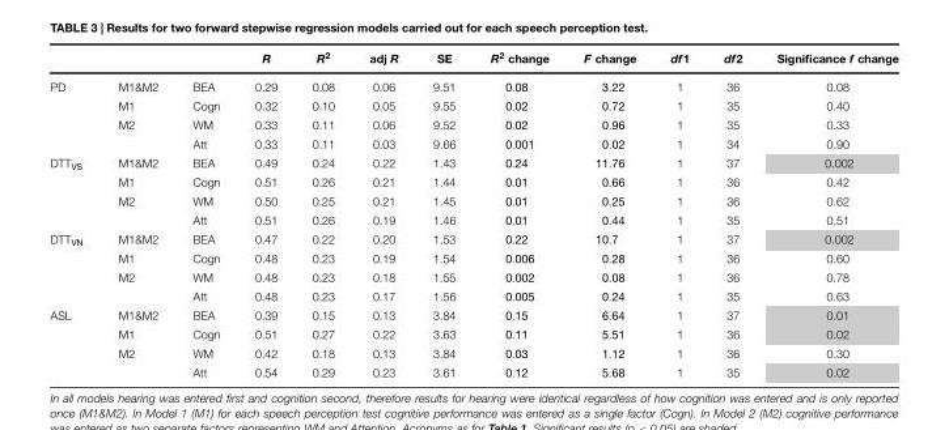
<table><thead><tr><td></td><td></td><td></td><td>R</td><td>R2</td><td>adj R</td><td>SE</td><td>R2 change</td><td>F change</td><td>df1</td><td>df2</td><td>Significance f change</td></tr></thead><tbody><tr><td rowspan="4">PD</td><td>M1&amp;M2</td><td>BEA</td><td>0.29</td><td>0.08</td><td>0.06</td><td>9.51</td><td>0.08</td><td>3.22</td><td>1</td><td>36</td><td>0.08</td></tr><tr><td>M1</td><td>Cogn</td><td>0.32</td><td>0.10</td><td>0.05</td><td>9.55</td><td>0.02</td><td>0.72</td><td>1</td><td>35</td><td>0.40</td></tr><tr><td>M2</td><td>WM</td><td>0.33</td><td>0.11</td><td>0.06</td><td>9.52</td><td>0.02</td><td>0.96</td><td>1</td><td>35</td><td>0.33</td></tr><tr><td></td><td>Att</td><td>0.33</td><td>0.11</td><td>0.03</td><td>9.66</td><td>0.001</td><td>0.02</td><td>1</td><td>34</td><td>0.90</td></tr><tr><td rowspan="4">DTTVS</td><td>M1&amp;M2</td><td>BEA</td><td>0.49</td><td>0.24</td><td>0.22</td><td>1.43</td><td>0.24</td><td>11.76</td><td>1</td><td>37</td><td>0.002</td></tr><tr><td>M1</td><td>Cogn</td><td>0.51</td><td>0.26</td><td>0.21</td><td>1.44</td><td>0.01</td><td>0.66</td><td>1</td><td>36</td><td>0.42</td></tr><tr><td>M2</td><td>WM</td><td>0.50</td><td>0.25</td><td>0.21</td><td>1.45</td><td>0.01</td><td>0.25</td><td>1</td><td>36</td><td>0.62</td></tr><tr><td></td><td>Att</td><td>0.51</td><td>0.26</td><td>0.19</td><td>1.46</td><td>0.01</td><td>0.44</td><td>1</td><td>35</td><td>0.51</td></tr><tr><td rowspan="4">DTTVN</td><td>M1&amp;M2</td><td>BEA</td><td>0.47</td><td>0.22</td><td>0.20</td><td>1.53</td><td>0.22</td><td>10.7</td><td>1</td><td>37</td><td>0.002</td></tr><tr><td>M1</td><td>Cogn</td><td>0.48</td><td>0.23</td><td>0.19</td><td>1.54</td><td>0.006</td><td>0.28</td><td>1</td><td>36</td><td>0.60</td></tr><tr><td>M2</td><td>WM</td><td>0.48</td><td>0.23</td><td>0.18</td><td>1.55</td><td>0.002</td><td>0.08</td><td>1</td><td>36</td><td>0.78</td></tr><tr><td></td><td>Att</td><td>0.48</td><td>0.23</td><td>0.17</td><td>1.56</td><td>0.005</td><td>0.24</td><td>1</td><td>35</td><td>0.63</td></tr><tr><td rowspan="4">ASL</td><td>M1&amp;M2</td><td>BEA</td><td>0.39</td><td>0.15</td><td>0.13</td><td>3.84</td><td>0.15</td><td>6.64</td><td>1</td><td>37</td><td>0.01</td></tr><tr><td>M1</td><td>Cogn</td><td>0.51</td><td>0.27</td><td>0.22</td><td>3.63</td><td>0.11</td><td>5.51</td><td>1</td><td>36</td><td>0.02</td></tr><tr><td>M2</td><td>WM</td><td>0.42</td><td>0.18</td><td>0.13</td><td>3.84</td><td>0.03</td><td>1.12</td><td>1</td><td>36</td><td>0.30</td></tr><tr><td></td><td>Att</td><td>0.54</td><td>0.29</td><td>0.23</td><td>3.61</td><td>0.12</td><td>5.68</td><td>1</td><td>35</td><td>0.02</td></tr></tbody></table>